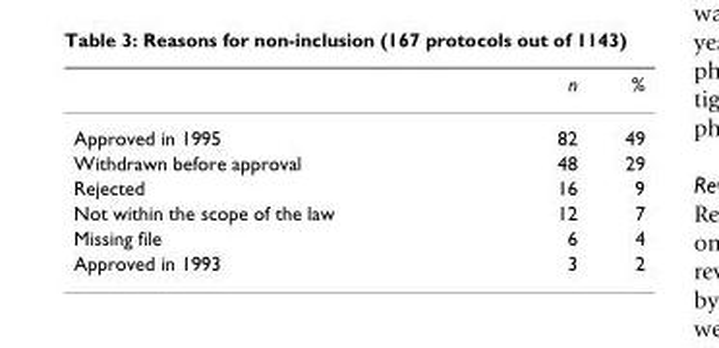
<table><thead><tr><td></td><td>n</td><td>%</td></tr></thead><tbody><tr><td>Approved in 1995</td><td>82</td><td>49</td></tr><tr><td>Withdrawn before approval</td><td>48</td><td>29</td></tr><tr><td>Rejected</td><td>16</td><td>9</td></tr><tr><td>Not within the scope of the law</td><td>12</td><td>7</td></tr><tr><td>Missing file</td><td>6</td><td>4</td></tr><tr><td>Approved in 1993</td><td>3</td><td>2</td></tr></tbody></table>